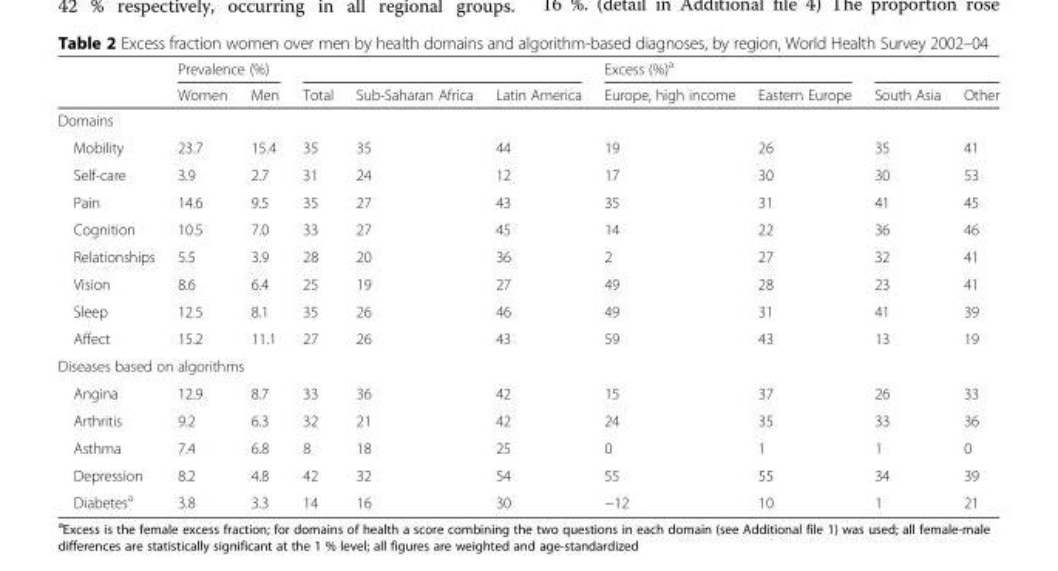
<table><thead><tr><td rowspan="2"></td><td colspan="2">Prevalence (%)</td><td rowspan="2">Total</td><td rowspan="2">Sub-Saharan Africa</td><td rowspan="2">Latin America</td><td colspan="2">Excess (%)<sup>a</sup></td><td rowspan="2">South Asia</td><td rowspan="2">Other</td></tr><tr><td>Women</td><td>Men</td><td>Europe, high income</td><td>Eastern Europe</td></tr></thead><tbody><tr><td colspan="10">Domains</td></tr><tr><td>Mobility</td><td>23.7</td><td>15.4</td><td>35</td><td>35</td><td>44</td><td>19</td><td>26</td><td>35</td><td>41</td></tr><tr><td>Self-care</td><td>3.9</td><td>2.7</td><td>31</td><td>24</td><td>12</td><td>17</td><td>30</td><td>30</td><td>53</td></tr><tr><td>Pain</td><td>14.6</td><td>9.5</td><td>35</td><td>27</td><td>43</td><td>35</td><td>31</td><td>41</td><td>45</td></tr><tr><td>Cognition</td><td>10.5</td><td>7.0</td><td>33</td><td>27</td><td>45</td><td>14</td><td>22</td><td>36</td><td>46</td></tr><tr><td>Relationships</td><td>5.5</td><td>3.9</td><td>28</td><td>20</td><td>36</td><td>2</td><td>27</td><td>32</td><td>41</td></tr><tr><td>Vision</td><td>8.6</td><td>6.4</td><td>25</td><td>19</td><td>27</td><td>49</td><td>28</td><td>23</td><td>41</td></tr><tr><td>Sleep</td><td>12.5</td><td>8.1</td><td>35</td><td>26</td><td>46</td><td>49</td><td>31</td><td>41</td><td>39</td></tr><tr><td>Affect</td><td>15.2</td><td>11.1</td><td>27</td><td>26</td><td>43</td><td>59</td><td>43</td><td>13</td><td>19</td></tr><tr><td colspan="10">Diseases based on algorithms</td></tr><tr><td>Angina</td><td>12.9</td><td>8.7</td><td>33</td><td>36</td><td>42</td><td>15</td><td>37</td><td>26</td><td>33</td></tr><tr><td>Arthritis</td><td>9.2</td><td>6.3</td><td>32</td><td>21</td><td>42</td><td>24</td><td>35</td><td>33</td><td>36</td></tr><tr><td>Asthma</td><td>7.4</td><td>6.8</td><td>8</td><td>18</td><td>25</td><td>0</td><td>1</td><td>1</td><td>0</td></tr><tr><td>Depression</td><td>8.2</td><td>4.8</td><td>42</td><td>32</td><td>54</td><td>55</td><td>55</td><td>34</td><td>39</td></tr><tr><td>Diabetes<sup>a</sup></td><td>3.8</td><td>3.3</td><td>14</td><td>16</td><td>30</td><td>−12</td><td>10</td><td>1</td><td>21</td></tr></tbody></table>